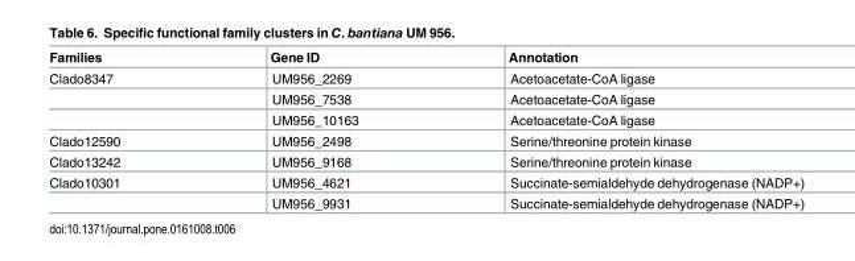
<table><thead><tr><td>Families</td><td>Gene ID</td><td>Annotation</td></tr></thead><tbody><tr><td rowspan="3">Clado8347</td><td>UM956_2269</td><td>Acetoacetate-CoA ligase</td></tr><tr><td>UM956_7538</td><td>Acetoacetate-CoA ligase</td></tr><tr><td>UM956_10163</td><td>Acetoacetate-CoA ligase</td></tr><tr><td>Clado12590</td><td>UM956_2498</td><td>Serine/threonine protein kinase</td></tr><tr><td>Clado13242</td><td>UM956_9168</td><td>Serine/threonine protein kinase</td></tr><tr><td rowspan="2">Clado10301</td><td>UM956_4621</td><td>Succinate-semialdehyde dehydrogenase (NADP+)</td></tr><tr><td>UM956_9931</td><td>Succinate-semialdehyde dehydrogenase (NADP+)</td></tr></tbody></table>